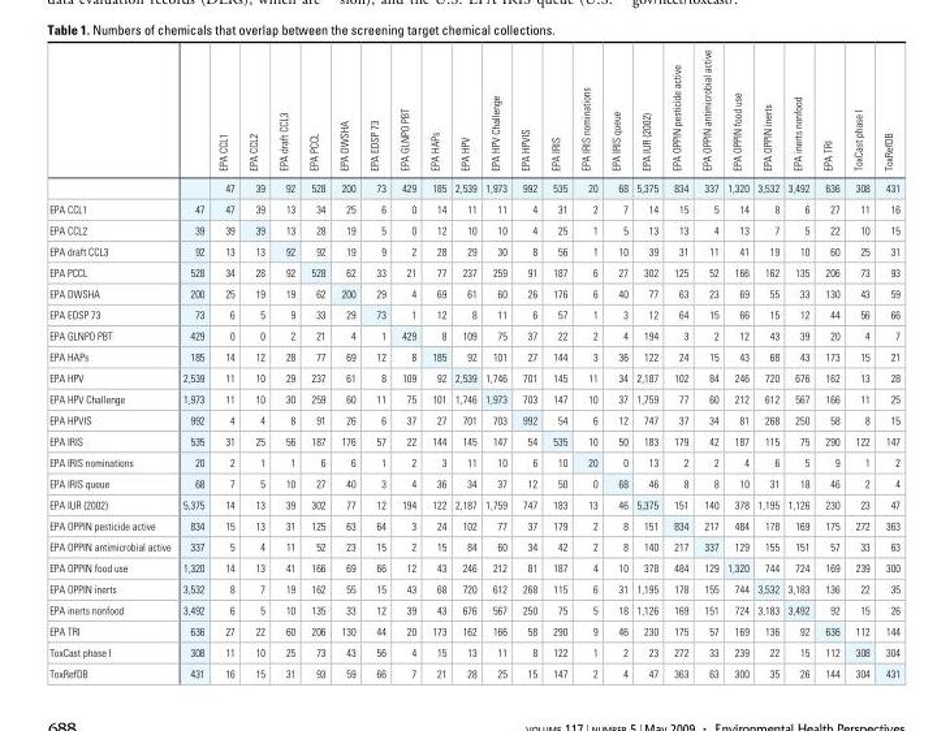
<table><thead><tr><td></td><td></td><td>EPA CCL1</td><td>EPA CCL2</td><td>EPA draft CCL3</td><td>EPA PCCL</td><td>EPA DWSHA</td><td>EPA EDSP 73</td><td>EPA GLNPO PBT</td><td>EPA HAPs</td><td>EPA HPV</td><td>EPA HPV Challenge</td><td>EPA HPVIS</td><td>EPA IRIS</td><td>EPA IRIS nominations</td><td>EPA IRIS queue</td><td>EPA IUR (2002)</td><td>EPA OPPIN pesticide active</td><td>EPA OPPIN antimicrobial active</td><td>EPA OPPIN food use</td><td>EPA OPPIN inerts</td><td>EPA inerts nonfood</td><td>EPA TRI</td><td>ToxCast phase I</td><td>ToxRefDB</td></tr></thead><tbody><tr><td></td><td></td><td>47</td><td>39</td><td>92</td><td>528</td><td>200</td><td>73</td><td>429</td><td>185</td><td>2,539</td><td>1,973</td><td>992</td><td>535</td><td>20</td><td>68</td><td>5,375</td><td>834</td><td>337</td><td>1,320</td><td>3,532</td><td>3,492</td><td>636</td><td>308</td><td>431</td></tr><tr><td>EPA CCL1</td><td>47</td><td>47</td><td>39</td><td>13</td><td>34</td><td>25</td><td>6</td><td>0</td><td>14</td><td>11</td><td>11</td><td>4</td><td>31</td><td>2</td><td>7</td><td>14</td><td>15</td><td>5</td><td>14</td><td>8</td><td>6</td><td>27</td><td>11</td><td>16</td></tr><tr><td>EPA CCL2</td><td>39</td><td>39</td><td>39</td><td>13</td><td>28</td><td>19</td><td>5</td><td>0</td><td>12</td><td>10</td><td>10</td><td>4</td><td>25</td><td>1</td><td>5</td><td>13</td><td>13</td><td>4</td><td>13</td><td>7</td><td>5</td><td>22</td><td>10</td><td>15</td></tr><tr><td>EPA draft CCL3</td><td>92</td><td>13</td><td>13</td><td>92</td><td>92</td><td>19</td><td>9</td><td>2</td><td>28</td><td>29</td><td>30</td><td>8</td><td>56</td><td>1</td><td>10</td><td>39</td><td>31</td><td>11</td><td>41</td><td>19</td><td>10</td><td>60</td><td>25</td><td>31</td></tr><tr><td>EPA PCCL</td><td>528</td><td>34</td><td>28</td><td>92</td><td>528</td><td>62</td><td>33</td><td>21</td><td>77</td><td>237</td><td>259</td><td>91</td><td>187</td><td>6</td><td>27</td><td>302</td><td>125</td><td>52</td><td>166</td><td>162</td><td>135</td><td>206</td><td>73</td><td>93</td></tr><tr><td>EPA DWSHA</td><td>200</td><td>25</td><td>19</td><td>19</td><td>62</td><td>200</td><td>29</td><td>4</td><td>69</td><td>61</td><td>60</td><td>26</td><td>176</td><td>6</td><td>40</td><td>77</td><td>63</td><td>23</td><td>69</td><td>55</td><td>33</td><td>130</td><td>43</td><td>59</td></tr><tr><td>EPA EDSP 73</td><td>73</td><td>6</td><td>5</td><td>9</td><td>33</td><td>29</td><td>73</td><td>1</td><td>12</td><td>8</td><td>11</td><td>6</td><td>57</td><td>1</td><td>3</td><td>12</td><td>64</td><td>15</td><td>66</td><td>15</td><td>12</td><td>44</td><td>56</td><td>66</td></tr><tr><td>EPA GLNPO PBT</td><td>429</td><td>0</td><td>0</td><td>2</td><td>21</td><td>4</td><td>1</td><td>429</td><td>8</td><td>109</td><td>75</td><td>37</td><td>22</td><td>2</td><td>4</td><td>194</td><td>3</td><td>2</td><td>12</td><td>43</td><td>39</td><td>20</td><td>4</td><td>7</td></tr><tr><td>EPA HAPs</td><td>185</td><td>14</td><td>12</td><td>28</td><td>77</td><td>69</td><td>12</td><td>8</td><td>185</td><td>92</td><td>101</td><td>27</td><td>144</td><td>3</td><td>36</td><td>122</td><td>24</td><td>15</td><td>43</td><td>68</td><td>43</td><td>173</td><td>15</td><td>21</td></tr><tr><td>EPA HPV</td><td>2,539</td><td>11</td><td>10</td><td>29</td><td>237</td><td>61</td><td>8</td><td>109</td><td>92</td><td>2,539</td><td>1,746</td><td>701</td><td>145</td><td>11</td><td>34</td><td>2,187</td><td>102</td><td>84</td><td>246</td><td>720</td><td>676</td><td>162</td><td>13</td><td>28</td></tr><tr><td>EPA HPV Challenge</td><td>1,973</td><td>11</td><td>10</td><td>30</td><td>259</td><td>60</td><td>11</td><td>75</td><td>101</td><td>1,746</td><td>1,973</td><td>703</td><td>147</td><td>10</td><td>37</td><td>1,759</td><td>77</td><td>60</td><td>212</td><td>612</td><td>567</td><td>166</td><td>11</td><td>25</td></tr><tr><td>EPA HPVIS</td><td>992</td><td>4</td><td>4</td><td>8</td><td>91</td><td>26</td><td>6</td><td>37</td><td>27</td><td>701</td><td>703</td><td>992</td><td>54</td><td>6</td><td>12</td><td>747</td><td>37</td><td>34</td><td>81</td><td>268</td><td>250</td><td>58</td><td>8</td><td>15</td></tr><tr><td>EPA IRIS</td><td>535</td><td>31</td><td>25</td><td>56</td><td>187</td><td>176</td><td>57</td><td>22</td><td>144</td><td>145</td><td>147</td><td>54</td><td>535</td><td>10</td><td>50</td><td>183</td><td>179</td><td>42</td><td>187</td><td>115</td><td>75</td><td>290</td><td>122</td><td>147</td></tr><tr><td>EPA IRIS nominations</td><td>20</td><td>2</td><td>1</td><td>1</td><td>6</td><td>6</td><td>1</td><td>2</td><td>3</td><td>11</td><td>10</td><td>6</td><td>10</td><td>20</td><td>0</td><td>13</td><td>2</td><td>2</td><td>4</td><td>6</td><td>5</td><td>9</td><td>1</td><td>2</td></tr><tr><td>EPA IRIS queue</td><td>68</td><td>7</td><td>5</td><td>10</td><td>27</td><td>40</td><td>3</td><td>4</td><td>36</td><td>34</td><td>37</td><td>12</td><td>50</td><td>0</td><td>68</td><td>46</td><td>8</td><td>8</td><td>10</td><td>31</td><td>18</td><td>46</td><td>2</td><td>4</td></tr><tr><td>EPA IUR (2002)</td><td>5,375</td><td>14</td><td>13</td><td>39</td><td>302</td><td>77</td><td>12</td><td>194</td><td>122</td><td>2,187</td><td>1,759</td><td>747</td><td>183</td><td>13</td><td>46</td><td>5,375</td><td>151</td><td>140</td><td>378</td><td>1,195</td><td>1,126</td><td>230</td><td>23</td><td>47</td></tr><tr><td>EPA OPPIN pesticide active</td><td>834</td><td>15</td><td>13</td><td>31</td><td>125</td><td>63</td><td>64</td><td>3</td><td>24</td><td>102</td><td>77</td><td>37</td><td>179</td><td>2</td><td>8</td><td>151</td><td>834</td><td>217</td><td>484</td><td>178</td><td>169</td><td>175</td><td>272</td><td>363</td></tr><tr><td>EPA OPPIN antimicrobial active</td><td>337</td><td>5</td><td>4</td><td>11</td><td>52</td><td>23</td><td>15</td><td>2</td><td>15</td><td>84</td><td>60</td><td>34</td><td>42</td><td>2</td><td>8</td><td>140</td><td>217</td><td>337</td><td>129</td><td>155</td><td>151</td><td>57</td><td>33</td><td>63</td></tr><tr><td>EPA OPPIN food use</td><td>1,320</td><td>14</td><td>13</td><td>41</td><td>166</td><td>69</td><td>66</td><td>12</td><td>43</td><td>246</td><td>212</td><td>81</td><td>187</td><td>4</td><td>10</td><td>378</td><td>484</td><td>129</td><td>1,320</td><td>744</td><td>724</td><td>169</td><td>239</td><td>300</td></tr><tr><td>EPA OPPIN inerts</td><td>3,532</td><td>8</td><td>7</td><td>19</td><td>162</td><td>55</td><td>15</td><td>43</td><td>68</td><td>720</td><td>612</td><td>268</td><td>115</td><td>6</td><td>31</td><td>1,195</td><td>178</td><td>155</td><td>744</td><td>3,532</td><td>3,183</td><td>136</td><td>22</td><td>35</td></tr><tr><td>EPA inerts nonfood</td><td>3,492</td><td>6</td><td>5</td><td>10</td><td>135</td><td>33</td><td>12</td><td>39</td><td>43</td><td>676</td><td>567</td><td>250</td><td>75</td><td>5</td><td>18</td><td>1,126</td><td>169</td><td>151</td><td>724</td><td>3,183</td><td>3,492</td><td>92</td><td>15</td><td>26</td></tr><tr><td>EPA TRI</td><td>636</td><td>27</td><td>22</td><td>60</td><td>206</td><td>130</td><td>44</td><td>20</td><td>173</td><td>162</td><td>166</td><td>58</td><td>290</td><td>9</td><td>46</td><td>230</td><td>175</td><td>57</td><td>169</td><td>136</td><td>92</td><td>636</td><td>112</td><td>144</td></tr><tr><td>ToxCast phase I</td><td>308</td><td>11</td><td>10</td><td>25</td><td>73</td><td>43</td><td>56</td><td>4</td><td>15</td><td>13</td><td>11</td><td>8</td><td>122</td><td>1</td><td>2</td><td>23</td><td>272</td><td>33</td><td>239</td><td>22</td><td>15</td><td>112</td><td>308</td><td>304</td></tr><tr><td>ToxRefDB</td><td>431</td><td>16</td><td>15</td><td>31</td><td>93</td><td>59</td><td>66</td><td>7</td><td>21</td><td>28</td><td>25</td><td>15</td><td>147</td><td>2</td><td>4</td><td>47</td><td>363</td><td>63</td><td>300</td><td>35</td><td>26</td><td>144</td><td>304</td><td>431</td></tr></tbody></table>